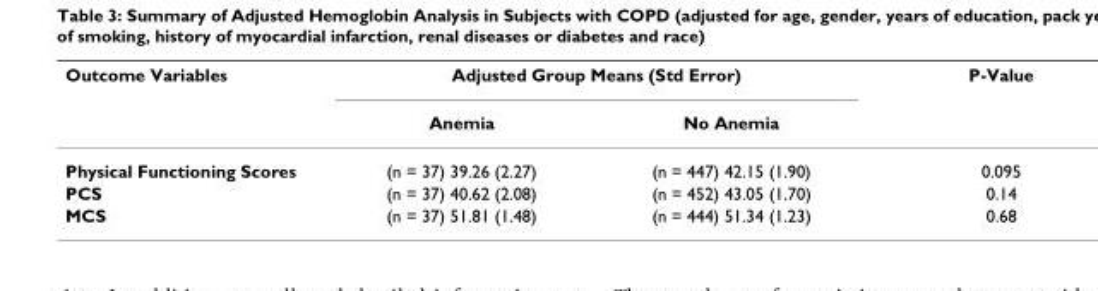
<table><thead><tr><td rowspan="2">Outcome Variables</td><td colspan="2">Adjusted Group Means (Std Error)</td><td rowspan="2">P-Value</td></tr><tr><td>Anemia</td><td>No Anemia</td></tr></thead><tbody><tr><td>Physical Functioning Scores</td><td>(n = 37) 39.26 (2.27)</td><td>(n = 447) 42.15 (1.90)</td><td>0.095</td></tr><tr><td>PCS</td><td>(n = 37) 40.62 (2.08)</td><td>(n = 452) 43.05 (1.70)</td><td>0.14</td></tr><tr><td>MCS</td><td>(n = 37) 51.81 (1.48)</td><td>(n = 444) 51.34 (1.23)</td><td>0.68</td></tr></tbody></table>